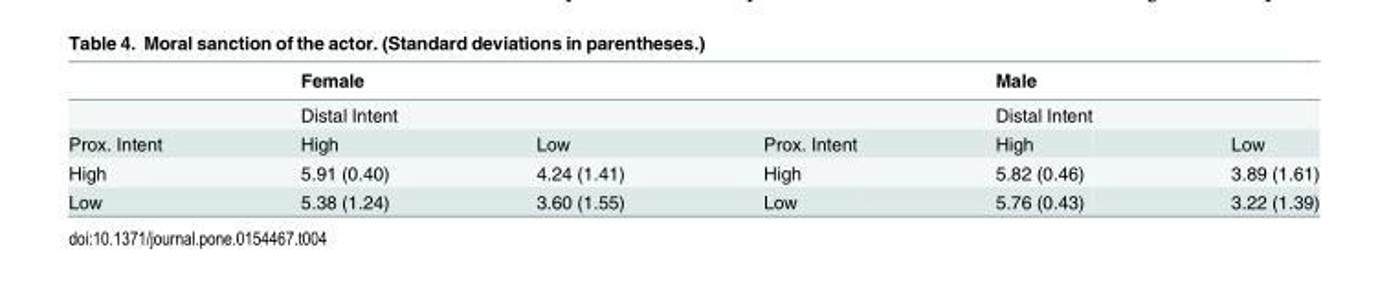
<table><thead><tr><td></td><td>Female</td><td></td><td></td><td>Male</td><td></td></tr></thead><tbody><tr><td></td><td>Distal Intent</td><td></td><td></td><td>Distal Intent</td><td></td></tr><tr><td>Prox. Intent</td><td>High</td><td>Low</td><td>Prox. Intent</td><td>High</td><td>Low</td></tr><tr><td>High</td><td>5.91 (0.40)</td><td>4.24 (1.41)</td><td>High</td><td>5.82 (0.46)</td><td>3.89 (1.61)</td></tr><tr><td>Low</td><td>5.38 (1.24)</td><td>3.60 (1.55)</td><td>Low</td><td>5.76 (0.43)</td><td>3.22 (1.39)</td></tr></tbody></table>